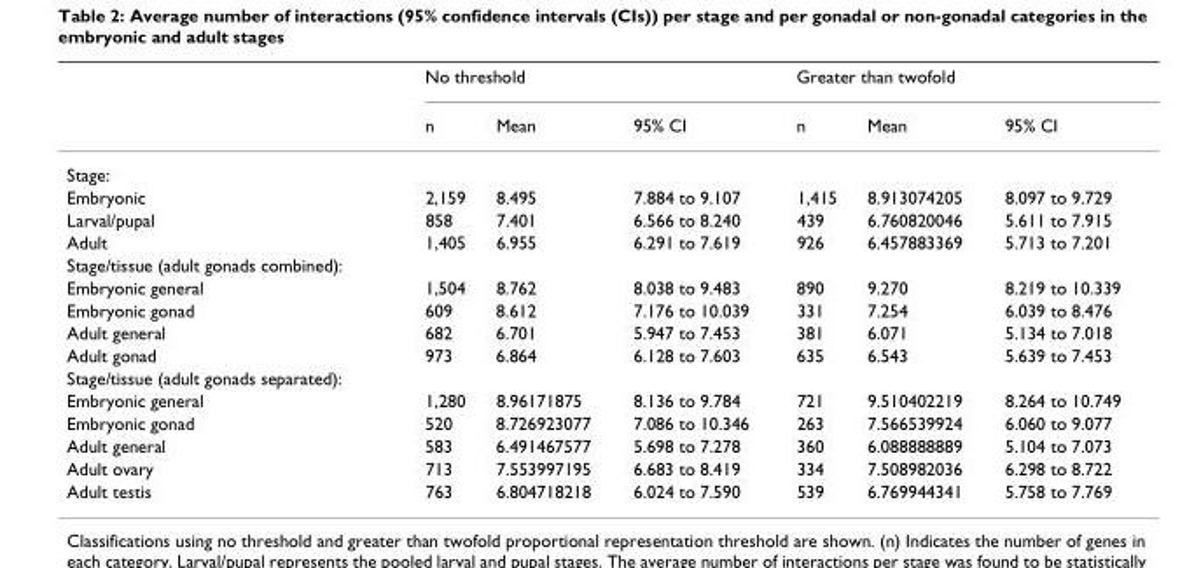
<table><thead><tr><td rowspan="2"></td><td colspan="3">No threshold</td><td colspan="3">Greater than twofold</td></tr><tr><td>n</td><td>Mean</td><td>95% CI</td><td>n</td><td>Mean</td><td>95% CI</td></tr></thead><tbody><tr><td colspan="7">Stage:</td></tr><tr><td>Embryonic</td><td>2,159</td><td>8.495</td><td>7.884 to 9.107</td><td>1,415</td><td>8.913074205</td><td>8.097 to 9.729</td></tr><tr><td>Larval/pupal</td><td>858</td><td>7.401</td><td>6.566 to 8.240</td><td>439</td><td>6.760820046</td><td>5.611 to 7.915</td></tr><tr><td>Adult</td><td>1,405</td><td>6.955</td><td>6.291 to 7.619</td><td>926</td><td>6.457883369</td><td>5.713 to 7.201</td></tr><tr><td colspan="7">Stage/tissue (adult gonads combined):</td></tr><tr><td>Embryonic general</td><td>1,504</td><td>8.762</td><td>8.038 to 9.483</td><td>890</td><td>9.270</td><td>8.219 to 10.339</td></tr><tr><td>Embryonic gonad</td><td>609</td><td>8.612</td><td>7.176 to 10.039</td><td>331</td><td>7.254</td><td>6.039 to 8.476</td></tr><tr><td>Adult general</td><td>682</td><td>6.701</td><td>5.947 to 7.453</td><td>381</td><td>6.071</td><td>5.134 to 7.018</td></tr><tr><td>Adult gonad</td><td>973</td><td>6.864</td><td>6.128 to 7.603</td><td>635</td><td>6.543</td><td>5.639 to 7.453</td></tr><tr><td colspan="7">Stage/tissue (adult gonads separated):</td></tr><tr><td>Embryonic general</td><td>1,280</td><td>8.96171875</td><td>8.136 to 9.784</td><td>721</td><td>9.510402219</td><td>8.264 to 10.749</td></tr><tr><td>Embryonic gonad</td><td>520</td><td>8.726923077</td><td>7.086 to 10.346</td><td>263</td><td>7.566539924</td><td>6.060 to 9.077</td></tr><tr><td>Adult general</td><td>583</td><td>6.491467577</td><td>5.698 to 7.278</td><td>360</td><td>6.088888889</td><td>5.104 to 7.073</td></tr><tr><td>Adult ovary</td><td>713</td><td>7.553997195</td><td>6.683 to 8.419</td><td>334</td><td>7.508982036</td><td>6.298 to 8.722</td></tr><tr><td>Adult testis</td><td>763</td><td>6.804718218</td><td>6.024 to 7.590</td><td>539</td><td>6.769944341</td><td>5.758 to 7.769</td></tr></tbody></table>